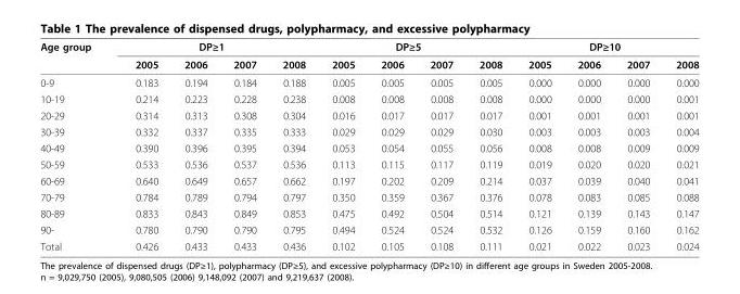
<table><thead><tr><td rowspan="2">Age group</td><td colspan="4">DP≥1</td><td colspan="4">DP≥5</td><td colspan="4">DP≥10</td></tr><tr><td>2005</td><td>2006</td><td>2007</td><td>2008</td><td>2005</td><td>2006</td><td>2007</td><td>2008</td><td>2005</td><td>2006</td><td>2007</td><td>2008</td></tr></thead><tbody><tr><td>0-9</td><td>0.183</td><td>0.194</td><td>0.184</td><td>0.188</td><td>0.005</td><td>0.005</td><td>0.005</td><td>0.005</td><td>0.000</td><td>0.000</td><td>0.000</td><td>0.000</td></tr><tr><td>10-19</td><td>0.214</td><td>0.223</td><td>0.228</td><td>0.238</td><td>0.008</td><td>0.008</td><td>0.008</td><td>0.008</td><td>0.000</td><td>0.000</td><td>0.000</td><td>0.001</td></tr><tr><td>20-29</td><td>0.314</td><td>0.313</td><td>0.308</td><td>0.304</td><td>0.016</td><td>0.017</td><td>0.017</td><td>0.017</td><td>0.001</td><td>0.001</td><td>0.001</td><td>0.001</td></tr><tr><td>30-39</td><td>0.332</td><td>0.337</td><td>0.335</td><td>0.333</td><td>0.029</td><td>0.029</td><td>0.029</td><td>0.030</td><td>0.003</td><td>0.003</td><td>0.003</td><td>0.004</td></tr><tr><td>40-49</td><td>0.390</td><td>0.396</td><td>0.395</td><td>0.394</td><td>0.053</td><td>0.054</td><td>0.055</td><td>0.056</td><td>0.008</td><td>0.008</td><td>0.009</td><td>0.009</td></tr><tr><td>50-59</td><td>0.533</td><td>0.536</td><td>0.537</td><td>0.536</td><td>0.113</td><td>0.115</td><td>0.117</td><td>0.119</td><td>0.019</td><td>0.020</td><td>0.020</td><td>0.021</td></tr><tr><td>60-69</td><td>0.640</td><td>0.649</td><td>0.657</td><td>0.662</td><td>0.197</td><td>0.202</td><td>0.209</td><td>0.214</td><td>0.037</td><td>0.039</td><td>0.040</td><td>0.041</td></tr><tr><td>70-79</td><td>0.784</td><td>0.789</td><td>0.794</td><td>0.797</td><td>0.350</td><td>0.359</td><td>0.367</td><td>0.376</td><td>0.078</td><td>0.083</td><td>0.085</td><td>0.088</td></tr><tr><td>80-89</td><td>0.833</td><td>0.843</td><td>0.849</td><td>0.853</td><td>0.475</td><td>0.492</td><td>0.504</td><td>0.514</td><td>0.121</td><td>0.139</td><td>0.143</td><td>0.147</td></tr><tr><td>90-</td><td>0.780</td><td>0.790</td><td>0.790</td><td>0.795</td><td>0.494</td><td>0.524</td><td>0.524</td><td>0.532</td><td>0.126</td><td>0.159</td><td>0.160</td><td>0.162</td></tr><tr><td>Total</td><td>0.426</td><td>0.433</td><td>0.433</td><td>0.436</td><td>0.102</td><td>0.105</td><td>0.108</td><td>0.111</td><td>0.021</td><td>0.022</td><td>0.023</td><td>0.024</td></tr></tbody></table>